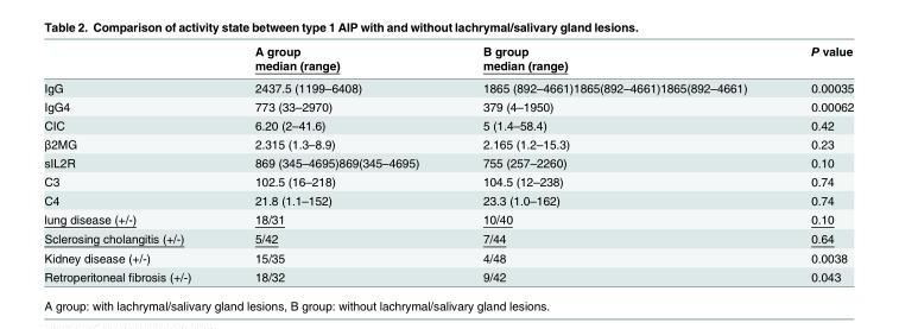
<table><thead><tr><td rowspan="2"></td><td rowspan="2">A group median (range)</td><td rowspan="2">B group median (range)</td><td rowspan="2">P value</td></tr><tr></tr></thead><tbody><tr><td>IgG</td><td>2437.5 (1199–6408)</td><td>1865 (892–4661)1865(892–4661)1865(892–4661)</td><td>0.00035</td></tr><tr><td>IgG4</td><td>773 (33–2970)</td><td>379 (4–1950)</td><td>0.00062</td></tr><tr><td>CIC</td><td>6.20 (2–41.6)</td><td>5 (1.4–58.4)</td><td>0.42</td></tr><tr><td>β2MG</td><td>2.315 (1.3–8.9)</td><td>2.165 (1.2–15.3)</td><td>0.23</td></tr><tr><td>sIL2R</td><td>869 (345–4695)869(345–4695)</td><td>755 (257–2260)</td><td>0.10</td></tr><tr><td>C3</td><td>102.5 (16–218)</td><td>104.5 (12–238)</td><td>0.74</td></tr><tr><td>C4</td><td>21.8 (1.1–152)</td><td>23.3 (1.0–162)</td><td>0.74</td></tr><tr><td>lung disease (+/-)</td><td>18/31</td><td>10/40</td><td>0.10</td></tr><tr><td>Sclerosing cholangitis (+/-)</td><td>5/42</td><td>7/44</td><td>0.64</td></tr><tr><td>Kidney disease (+/-)</td><td>15/35</td><td>4/48</td><td>0.0038</td></tr><tr><td>Retroperitoneal fibrosis (+/-)</td><td>18/32</td><td>9/42</td><td>0.043</td></tr></tbody></table>